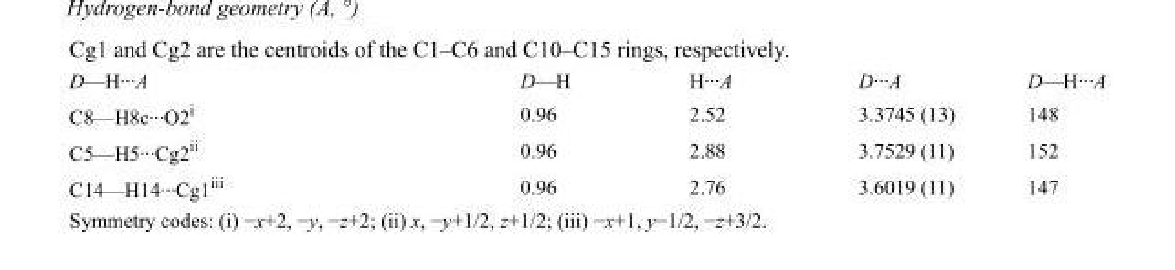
<table><tbody><tr><td>D—H···A</td><td>D—H</td><td>H···A</td><td>D···A</td><td>D—H···A</td></tr><tr><td>C8—H8c···O2<sup>i</sup></td><td>0.96</td><td>2.52</td><td>3.3745 (13)</td><td>148</td></tr><tr><td>C5—H5···Cg2<sup>ii</sup></td><td>0.96</td><td>2.88</td><td>3.7529 (11)</td><td>152</td></tr><tr><td>C14—H14···Cg1<sup>iii</sup></td><td>0.96</td><td>2.76</td><td>3.6019 (11)</td><td>147</td></tr></tbody></table>